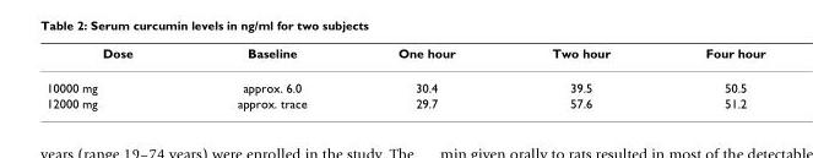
<table><thead><tr><td>Dose</td><td>Baseline</td><td>One hour</td><td>Two hour</td><td>Four hour</td></tr></thead><tbody><tr><td>10000 mg</td><td>approx. 6.0</td><td>30.4</td><td>39.5</td><td>50.5</td></tr><tr><td>12000 mg</td><td>approx. trace</td><td>29.7</td><td>57.6</td><td>51.2</td></tr></tbody></table>